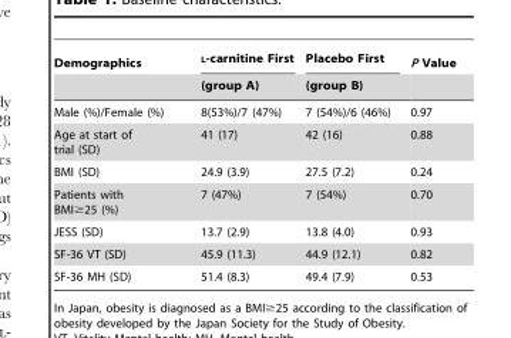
<table><thead><tr><td rowspan="2">Demographics</td><td rowspan="2">L-carnitine First (group A)</td><td rowspan="2">Placebo First (group B)</td><td rowspan="2">P Value</td></tr><tr></tr></thead><tbody><tr><td>Male (%)/Female (%)</td><td>8(53%)/7 (47%)</td><td>7 (54%)/6 (46%)</td><td>0.97</td></tr><tr><td>Age at start of trial (SD)</td><td>41 (17)</td><td>42 (16)</td><td>0.88</td></tr><tr><td>BMI (SD)</td><td>24.9 (3.9)</td><td>27.5 (7.2)</td><td>0.24</td></tr><tr><td>Patients with BMI≥25 (%)</td><td>7 (47%)</td><td>7 (54%)</td><td>0.70</td></tr><tr><td>JESS (SD)</td><td>13.7 (2.9)</td><td>13.8 (4.0)</td><td>0.93</td></tr><tr><td>SF-36 VT (SD)</td><td>45.9 (11.3)</td><td>44.9 (12.1)</td><td>0.82</td></tr><tr><td>SF-36 MH (SD)</td><td>51.4 (8.3)</td><td>49.4 (7.9)</td><td>0.53</td></tr></tbody></table>